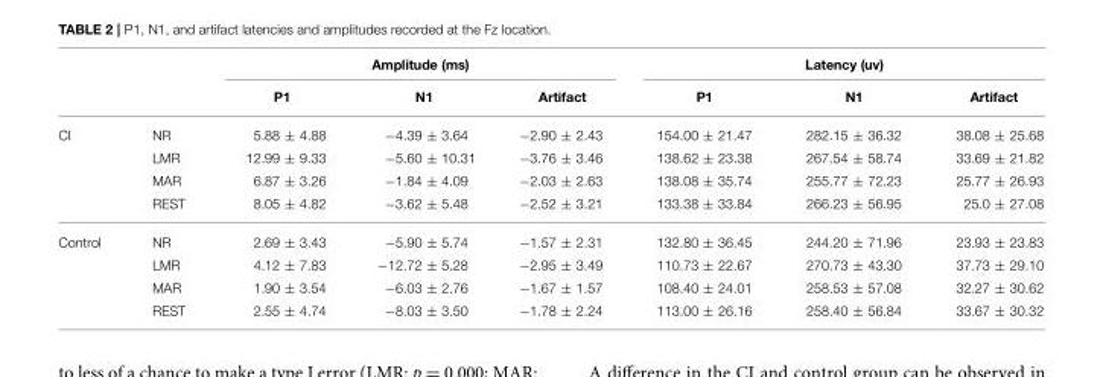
<table><thead><tr><td rowspan="2"></td><td rowspan="2"></td><td colspan="3">Amplitude (ms)</td><td colspan="3">Latency (uv)</td></tr><tr><td>P1</td><td>N1</td><td>Artifact</td><td>P1</td><td>N1</td><td>Artifact</td></tr></thead><tbody><tr><td rowspan="4">CI</td><td>NR</td><td>5.88 ± 4.88</td><td>−4.39 ± 3.64</td><td>−2.90 ± 2.43</td><td>154.00 ± 21.47</td><td>282.15 ± 36.32</td><td>38.08 ± 25.68</td></tr><tr><td>LMR</td><td>12.99 ± 9.33</td><td>−5.60 ± 10.31</td><td>−3.76 ± 3.46</td><td>138.62 ± 23.38</td><td>267.54 ± 58.74</td><td>33.69 ± 21.82</td></tr><tr><td>MAR</td><td>6.87 ± 3.26</td><td>−1.84 ± 4.09</td><td>−2.03 ± 2.63</td><td>138.08 ± 35.74</td><td>255.77 ± 72.23</td><td>25.77 ± 26.93</td></tr><tr><td>REST</td><td>8.05 ± 4.82</td><td>−3.62 ± 5.48</td><td>−2.52 ± 3.21</td><td>133.38 ± 33.84</td><td>266.23 ± 56.95</td><td>25.0 ± 27.08</td></tr><tr><td rowspan="4">Control</td><td>NR</td><td>2.69 ± 3.43</td><td>−5.90 ± 5.74</td><td>−1.57 ± 2.31</td><td>132.80 ± 36.45</td><td>244.20 ± 71.96</td><td>23.93 ± 23.83</td></tr><tr><td>LMR</td><td>4.12 ± 7.83</td><td>−12.72 ± 5.28</td><td>−2.95 ± 3.49</td><td>110.73 ± 22.67</td><td>270.73 ± 43.30</td><td>37.73 ± 29.10</td></tr><tr><td>MAR</td><td>1.90 ± 3.54</td><td>−6.03 ± 2.76</td><td>−1.67 ± 1.57</td><td>108.40 ± 24.01</td><td>258.53 ± 57.08</td><td>32.27 ± 30.62</td></tr><tr><td>REST</td><td>2.55 ± 4.74</td><td>−8.03 ± 3.50</td><td>−1.78 ± 2.24</td><td>113.00 ± 26.16</td><td>258.40 ± 56.84</td><td>33.67 ± 30.32</td></tr></tbody></table>